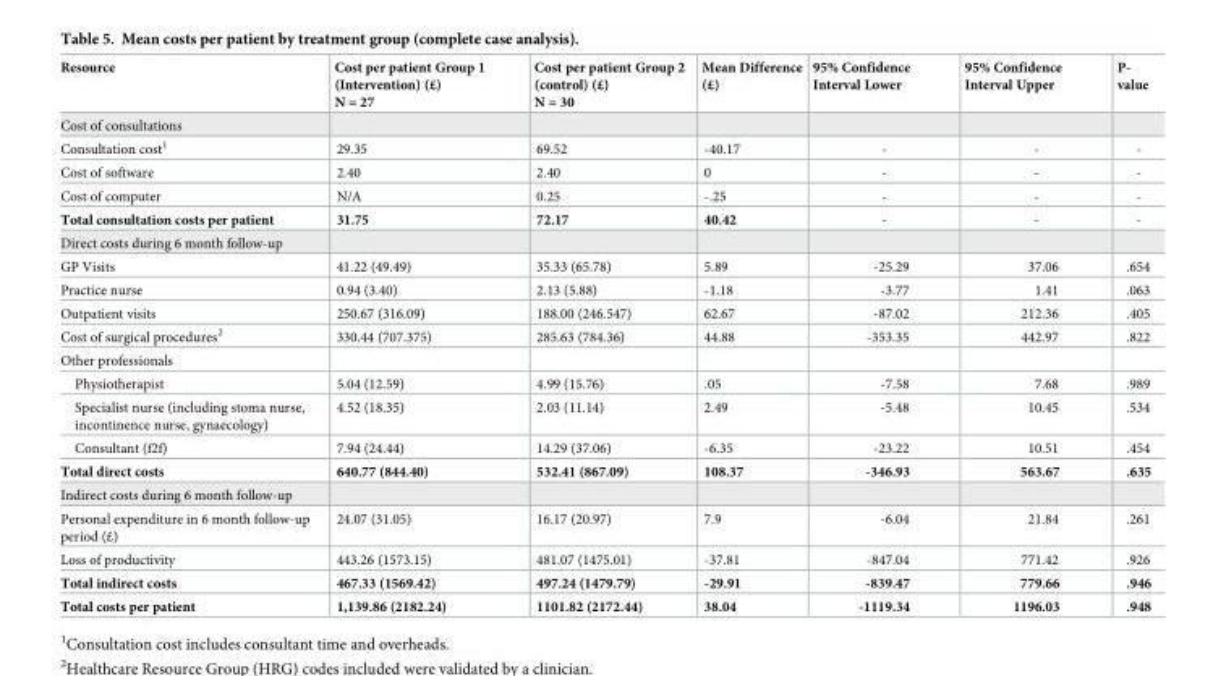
<table><thead><tr><td>Resource</td><td>Cost per patient Group 1 (Intervention) (£) N = 27</td><td>Cost per patient Group 2 (control) (£) N = 30</td><td>Mean Difference (£)</td><td>95% Confidence Interval Lower</td><td>95% Confidence Interval Upper</td><td>P- value</td></tr></thead><tbody><tr><td colspan="7">Cost of consultations</td></tr><tr><td>Consultation cost<sup>1</sup></td><td>29.35</td><td>69.52</td><td>-40.17</td><td>-</td><td>-</td><td>-</td></tr><tr><td>Cost of software</td><td>2.40</td><td>2.40</td><td>0</td><td>-</td><td>-</td><td>-</td></tr><tr><td>Cost of computer</td><td>N/A</td><td>0.25</td><td>-.25</td><td>-</td><td>-</td><td>-</td></tr><tr><td>Total consultation costs per patient</td><td>31.75</td><td>72.17</td><td>40.42</td><td>-</td><td>-</td><td>-</td></tr><tr><td colspan="7">Direct costs during 6 month follow-up</td></tr><tr><td>GP Visits</td><td>41.22 (49.49)</td><td>35.33 (65.78)</td><td>5.89</td><td>-25.29</td><td>37.06</td><td>.654</td></tr><tr><td>Practice nurse</td><td>0.94 (3.40)</td><td>2.13 (5.88)</td><td>-1.18</td><td>-3.77</td><td>1.41</td><td>.063</td></tr><tr><td>Outpatient visits</td><td>250.67 (316.09)</td><td>188.00 (246.547)</td><td>62.67</td><td>-87.02</td><td>212.36</td><td>.405</td></tr><tr><td>Cost of surgical procedures<sup>2</sup></td><td>330.44 (707.375)</td><td>285.63 (784.36)</td><td>44.88</td><td>-353.35</td><td>442.97</td><td>.822</td></tr><tr><td colspan="7">Other professionals</td></tr><tr><td>Physiotherapist</td><td>5.04 (12.59)</td><td>4.99 (15.76)</td><td>.05</td><td>-7.58</td><td>7.68</td><td>.989</td></tr><tr><td>Specialist nurse (including stoma nurse, incontinence nurse, gynaecology)</td><td>4.52 (18.35)</td><td>2.03 (11.14)</td><td>2.49</td><td>-5.48</td><td>10.45</td><td>.534</td></tr><tr><td>Consultant (f2f)</td><td>7.94 (24.44)</td><td>14.29 (37.06)</td><td>-6.35</td><td>-23.22</td><td>10.51</td><td>.454</td></tr><tr><td>Total direct costs</td><td>640.77 (844.40)</td><td>532.41 (867.09)</td><td>108.37</td><td>-346.93</td><td>563.67</td><td>.635</td></tr><tr><td colspan="7">Indirect costs during 6 month follow-up</td></tr><tr><td>Personal expenditure in 6 month follow-up period (£)</td><td>24.07 (31.05)</td><td>16.17 (20.97)</td><td>7.9</td><td>-6.04</td><td>21.84</td><td>.261</td></tr><tr><td>Loss of productivity</td><td>443.26 (1573.15)</td><td>481.07 (1475.01)</td><td>-37.81</td><td>-847.04</td><td>771.42</td><td>.926</td></tr><tr><td>Total indirect costs</td><td>467.33 (1569.42)</td><td>497.24 (1479.79)</td><td>-29.91</td><td>-839.47</td><td>779.66</td><td>.946</td></tr><tr><td>Total costs per patient</td><td>1,139.86 (2182.24)</td><td>1101.82 (2172.44)</td><td>38.04</td><td>-1119.34</td><td>1196.03</td><td>.948</td></tr></tbody></table>